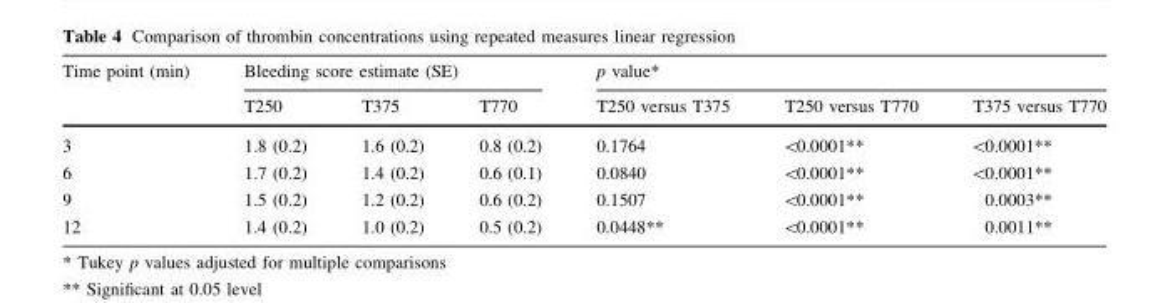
<table><thead><tr><td rowspan="2">Time point (min)</td><td colspan="3">Bleeding score estimate (SE)</td><td colspan="3">p value*</td></tr><tr><td>T250</td><td>T375</td><td>T770</td><td>T250 versus T375</td><td>T250 versus T770</td><td>T375 versus T770</td></tr></thead><tbody><tr><td>3</td><td>1.8 (0.2)</td><td>1.6 (0.2)</td><td>0.8 (0.2)</td><td>0.1764</td><td>&lt;0.0001**</td><td>&lt;0.0001**</td></tr><tr><td>6</td><td>1.7 (0.2)</td><td>1.4 (0.2)</td><td>0.6 (0.1)</td><td>0.0840</td><td>&lt;0.0001**</td><td>&lt;0.0001**</td></tr><tr><td>9</td><td>1.5 (0.2)</td><td>1.2 (0.2)</td><td>0.6 (0.2)</td><td>0.1507</td><td>&lt;0.0001**</td><td>0.0003**</td></tr><tr><td>12</td><td>1.4 (0.2)</td><td>1.0 (0.2)</td><td>0.5 (0.2)</td><td>0.0448**</td><td>&lt;0.0001**</td><td>0.0011**</td></tr></tbody></table>